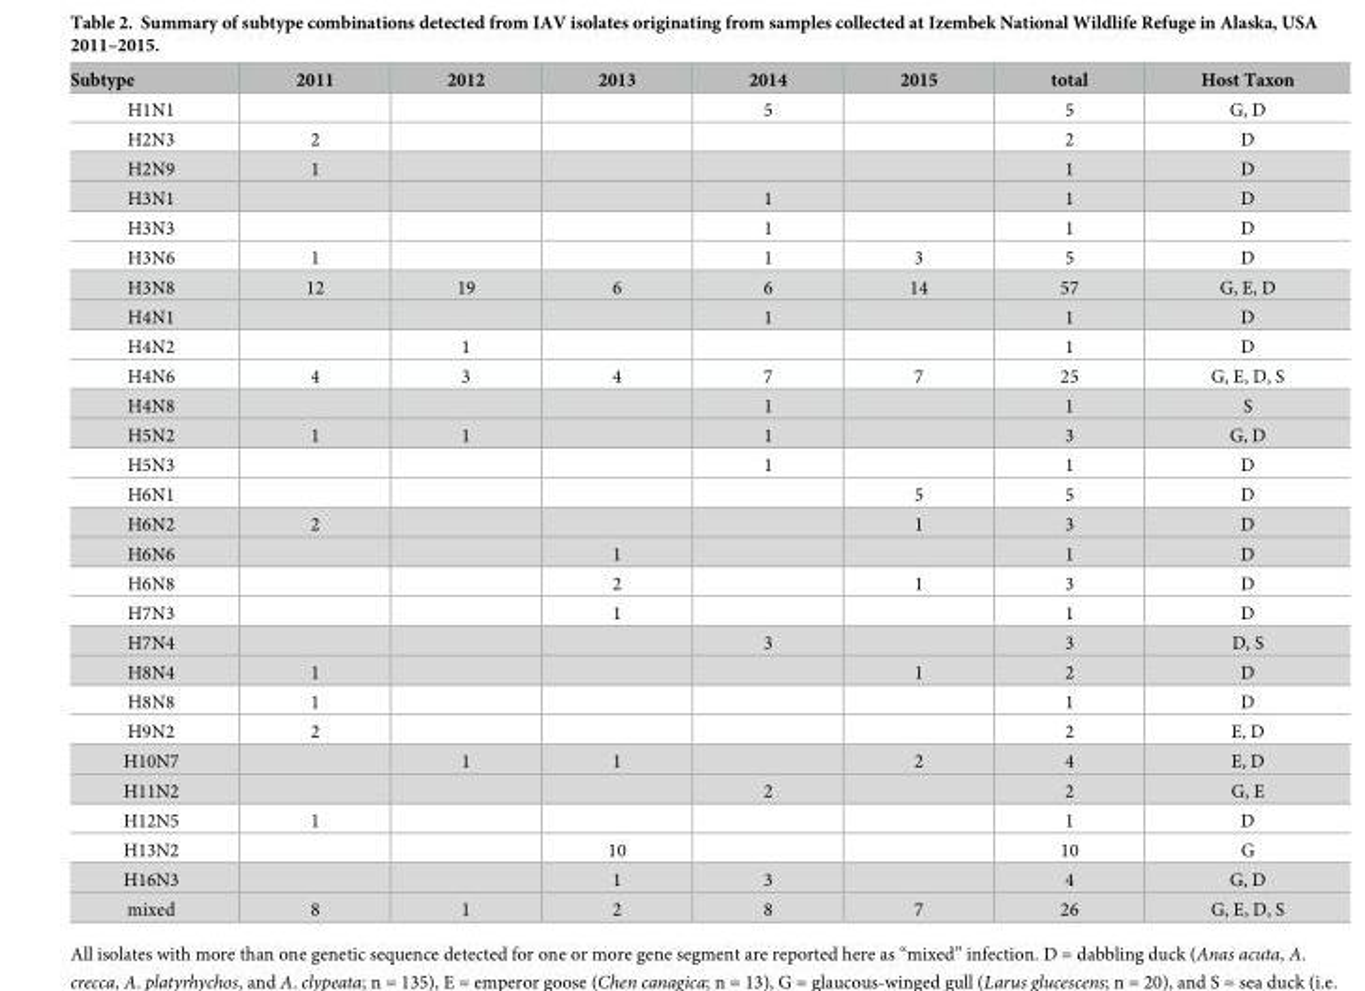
<table><thead><tr><td>Subtype</td><td>2011</td><td>2012</td><td>2013</td><td>2014</td><td>2015</td><td>total</td><td>Host Taxon</td></tr></thead><tbody><tr><td>H1N1</td><td></td><td></td><td></td><td>5</td><td></td><td>5</td><td>G, D</td></tr><tr><td>H2N3</td><td>2</td><td></td><td></td><td></td><td></td><td>2</td><td>D</td></tr><tr><td>H2N9</td><td>1</td><td></td><td></td><td></td><td></td><td>1</td><td>D</td></tr><tr><td>H3N1</td><td></td><td></td><td></td><td>1</td><td></td><td>1</td><td>D</td></tr><tr><td>H3N3</td><td></td><td></td><td></td><td>1</td><td></td><td>1</td><td>D</td></tr><tr><td>H3N6</td><td>1</td><td></td><td></td><td>1</td><td>3</td><td>5</td><td>D</td></tr><tr><td>H3N8</td><td>12</td><td>19</td><td>6</td><td>6</td><td>14</td><td>57</td><td>G, E, D</td></tr><tr><td>H4N1</td><td></td><td></td><td></td><td>1</td><td></td><td>1</td><td>D</td></tr><tr><td>H4N2</td><td></td><td>1</td><td></td><td></td><td></td><td>1</td><td>D</td></tr><tr><td>H4N6</td><td>4</td><td>3</td><td>4</td><td>7</td><td>7</td><td>25</td><td>G, E, D, S</td></tr><tr><td>H4N8</td><td></td><td></td><td></td><td>1</td><td></td><td>1</td><td>S</td></tr><tr><td>H5N2</td><td>1</td><td>1</td><td></td><td>1</td><td></td><td>3</td><td>G, D</td></tr><tr><td>H5N3</td><td></td><td></td><td></td><td>1</td><td></td><td>1</td><td>D</td></tr><tr><td>H6N1</td><td></td><td></td><td></td><td></td><td>5</td><td>5</td><td>D</td></tr><tr><td>H6N2</td><td>2</td><td></td><td></td><td></td><td>1</td><td>3</td><td>D</td></tr><tr><td>H6N6</td><td></td><td></td><td>1</td><td></td><td></td><td>1</td><td>D</td></tr><tr><td>H6N8</td><td></td><td></td><td>2</td><td></td><td>1</td><td>3</td><td>D</td></tr><tr><td>H7N3</td><td></td><td></td><td>1</td><td></td><td></td><td>1</td><td>D</td></tr><tr><td>H7N4</td><td></td><td></td><td></td><td>3</td><td></td><td>3</td><td>D, S</td></tr><tr><td>H8N4</td><td>1</td><td></td><td></td><td></td><td>1</td><td>2</td><td>D</td></tr><tr><td>H8N8</td><td>1</td><td></td><td></td><td></td><td></td><td>1</td><td>D</td></tr><tr><td>H9N2</td><td>2</td><td></td><td></td><td></td><td></td><td>2</td><td>E, D</td></tr><tr><td>H10N7</td><td></td><td>1</td><td>1</td><td></td><td>2</td><td>4</td><td>E, D</td></tr><tr><td>H11N2</td><td></td><td></td><td></td><td>2</td><td></td><td>2</td><td>G, E</td></tr><tr><td>H12N5</td><td>1</td><td></td><td></td><td></td><td></td><td>1</td><td>D</td></tr><tr><td>H13N2</td><td></td><td></td><td>10</td><td></td><td></td><td>10</td><td>G</td></tr><tr><td>H16N3</td><td></td><td></td><td>1</td><td>3</td><td></td><td>4</td><td>G, D</td></tr><tr><td>mixed</td><td>8</td><td>1</td><td>2</td><td>8</td><td>7</td><td>26</td><td>G, E, D, S</td></tr></tbody></table>